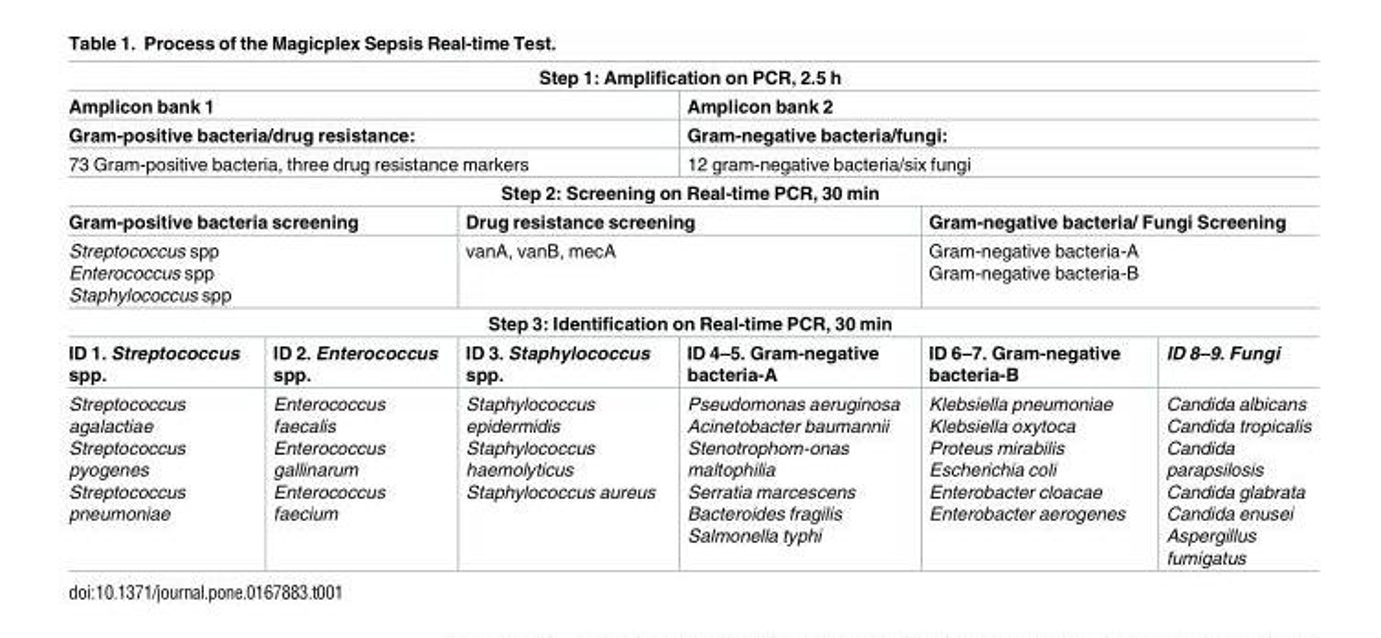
<table><tbody><tr><td colspan="6">Step 1: Amplification on PCR, 2.5 h</td></tr><tr><td colspan="3">Amplicon bank 1</td><td colspan="3">Amplicon bank 2</td></tr><tr><td colspan="3">Gram-positive bacteria/drug resistance:</td><td colspan="3">Gram-negative bacteria/fungi:</td></tr><tr><td colspan="3">73 Gram-positive bacteria, three drug resistance markers</td><td colspan="3">12 gram-negative bacteria/six fungi</td></tr><tr><td colspan="6">Step 2: Screening on Real-time PCR, 30 min</td></tr><tr><td colspan="2">Gram-positive bacteria screening</td><td colspan="2">Drug resistance screening</td><td colspan="2">Gram-negative bacteria/ Fungi Screening</td></tr><tr><td colspan="2">Streptococcus spp Enterococcus spp Staphylococcus spp</td><td colspan="2">vanA, vanB, mecA</td><td colspan="2">Gram-negative bacteria-A Gram-negative bacteria-B</td></tr><tr><td colspan="6">Step 3: Identification on Real-time PCR, 30 min</td></tr><tr><td>ID 1. Streptococcus spp.</td><td>ID 2. Enterococcus spp.</td><td>ID 3. Staphylococcus spp.</td><td>ID 4–5. Gram-negative bacteria-A</td><td>ID 6–7. Gram-negative bacteria-B</td><td>ID 8–9. Fungi</td></tr><tr><td>Streptococcus agalactiae Streptococcus pyogenes Streptococcus pneumoniae</td><td>Enterococcus faecalis Enterococcus gallinarum Enterococcus faecium</td><td>Staphylococcus epidermidis Staphylococcus haemolyticus Staphylococcus aureus</td><td>Pseudomonas aeruginosa Acinetobacter baumannii Stenotrophom-onas maltophilia Serratia marcescens Bacteroides fragilis Salmonella typhi</td><td>Klebsiella pneumoniae Klebsiella oxytoca Proteus mirabilis Escherichia coli Enterobacter cloacae Enterobacter aerogenes</td><td>Candida albicans Candida tropicalis Candida parapsilosis Candida glabrata Candida enusei Aspergillus fumigatus</td></tr></tbody></table>